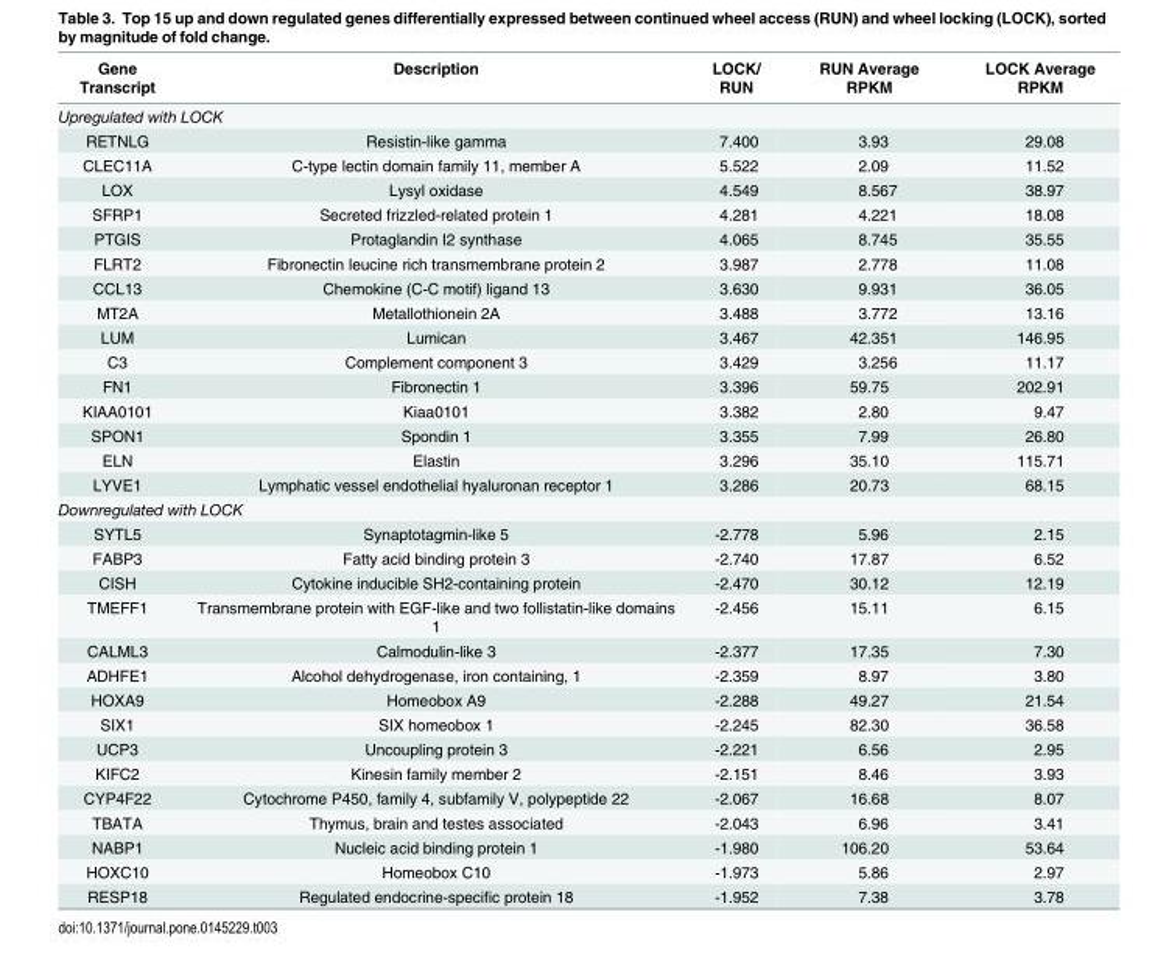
<table><thead><tr><td>Gene Transcript</td><td>Description</td><td>LOCK/ RUN</td><td>RUN Average RPKM</td><td>LOCK Average RPKM</td></tr></thead><tbody><tr><td colspan="5">Upregulated with LOCK</td></tr><tr><td>RETNLG</td><td>Resistin-like gamma</td><td>7.400</td><td>3.93</td><td>29.08</td></tr><tr><td>CLEC11A</td><td>C-type lectin domain family 11, member A</td><td>5.522</td><td>2.09</td><td>11.52</td></tr><tr><td>LOX</td><td>Lysyl oxidase</td><td>4.549</td><td>8.567</td><td>38.97</td></tr><tr><td>SFRP1</td><td>Secreted frizzled-related protein 1</td><td>4.281</td><td>4.221</td><td>18.08</td></tr><tr><td>PTGIS</td><td>Protaglandin I2 synthase</td><td>4.065</td><td>8.745</td><td>35.55</td></tr><tr><td>FLRT2</td><td>Fibronectin leucine rich transmembrane protein 2</td><td>3.987</td><td>2.778</td><td>11.08</td></tr><tr><td>CCL13</td><td>Chemokine (C-C motif) ligand 13</td><td>3.630</td><td>9.931</td><td>36.05</td></tr><tr><td>MT2A</td><td>Metallothionein 2A</td><td>3.488</td><td>3.772</td><td>13.16</td></tr><tr><td>LUM</td><td>Lumican</td><td>3.467</td><td>42.351</td><td>146.95</td></tr><tr><td>C3</td><td>Complement component 3</td><td>3.429</td><td>3.256</td><td>11.17</td></tr><tr><td>FN1</td><td>Fibronectin 1</td><td>3.396</td><td>59.75</td><td>202.91</td></tr><tr><td>KIAA0101</td><td>Kiaa0101</td><td>3.382</td><td>2.80</td><td>9.47</td></tr><tr><td>SPON1</td><td>Spondin 1</td><td>3.355</td><td>7.99</td><td>26.80</td></tr><tr><td>ELN</td><td>Elastin</td><td>3.296</td><td>35.10</td><td>115.71</td></tr><tr><td>LYVE1</td><td>Lymphatic vessel endothelial hyaluronan receptor 1</td><td>3.286</td><td>20.73</td><td>68.15</td></tr><tr><td colspan="5">Downregulated with LOCK</td></tr><tr><td>SYTL5</td><td>Synaptotagmin-like 5</td><td>-2.778</td><td>5.96</td><td>2.15</td></tr><tr><td>FABP3</td><td>Fatty acid binding protein 3</td><td>-2.740</td><td>17.87</td><td>6.52</td></tr><tr><td>CISH</td><td>Cytokine inducible SH2-containing protein</td><td>-2.470</td><td>30.12</td><td>12.19</td></tr><tr><td>TMEFF1</td><td>Transmembrane protein with EGF-like and two follistatin-like domains 1</td><td>-2.456</td><td>15.11</td><td>6.15</td></tr><tr><td>CALML3</td><td>Calmodulin-like 3</td><td>-2.377</td><td>17.35</td><td>7.30</td></tr><tr><td>ADHFE1</td><td>Alcohol dehydrogenase, iron containing, 1</td><td>-2.359</td><td>8.97</td><td>3.80</td></tr><tr><td>HOXA9</td><td>Homeobox A9</td><td>-2.288</td><td>49.27</td><td>21.54</td></tr><tr><td>SIX1</td><td>SIX homeobox 1</td><td>-2.245</td><td>82.30</td><td>36.58</td></tr><tr><td>UCP3</td><td>Uncoupling protein 3</td><td>-2.221</td><td>6.56</td><td>2.95</td></tr><tr><td>KIFC2</td><td>Kinesin family member 2</td><td>-2.151</td><td>8.46</td><td>3.93</td></tr><tr><td>CYP4F22</td><td>Cytochrome P450, family 4, subfamily V, polypeptide 22</td><td>-2.067</td><td>16.68</td><td>8.07</td></tr><tr><td>TBATA</td><td>Thymus, brain and testes associated</td><td>-2.043</td><td>6.96</td><td>3.41</td></tr><tr><td>NABP1</td><td>Nucleic acid binding protein 1</td><td>-1.980</td><td>106.20</td><td>53.64</td></tr><tr><td>HOXC10</td><td>Homeobox C10</td><td>-1.973</td><td>5.86</td><td>2.97</td></tr><tr><td>RESP18</td><td>Regulated endocrine-specific protein 18</td><td>-1.952</td><td>7.38</td><td>3.78</td></tr></tbody></table>